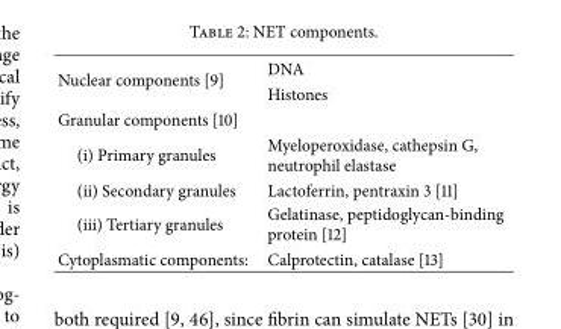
<table><tbody><tr><td rowspan="2">Nuclear components [9]</td><td>DNA</td></tr><tr><td>Histones</td></tr><tr><td colspan="2">Granular components [10]</td></tr><tr><td>(i) Primary granules</td><td>Myeloperoxidase, cathepsin G, neutrophil elastase</td></tr><tr><td>(ii) Secondary granules</td><td>Lactoferrin, pentraxin 3 [11]</td></tr><tr><td>(iii) Tertiary granules</td><td>Gelatinase, peptidoglycan-binding protein [12]</td></tr><tr><td>Cytoplasmatic components:</td><td>Calprotectin, catalase [13]</td></tr></tbody></table>